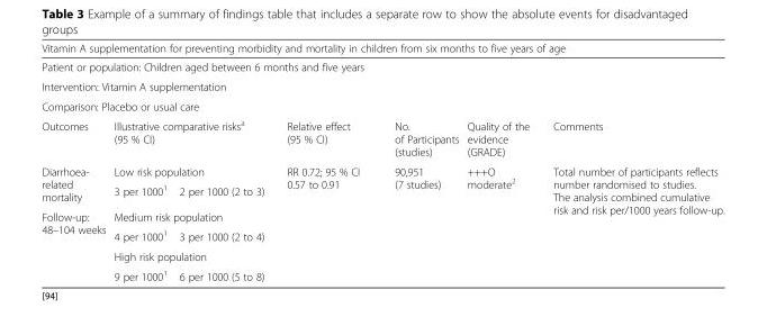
<table><thead><tr><td colspan="7">Vitamin A supplementation for preventing morbidity and mortality in children from six months to five years of age</td></tr></thead><tbody><tr><td colspan="7">Patient or population: Children aged between 6 months and five years</td></tr><tr><td colspan="7">Intervention: Vitamin A supplementation</td></tr><tr><td colspan="7">Comparison: Placebo or usual care</td></tr><tr><td>Outcomes</td><td colspan="2">Illustrative comparative risks<sup>a</sup> (95 % CI)</td><td>Relative effect (95 % CI)</td><td>No. of Participants (studies)</td><td>Quality of the evidence (GRADE)</td><td>Comments</td></tr><tr><td rowspan="2">Diarrhoea- related mortality</td><td colspan="2">Low risk population</td><td rowspan="6">RR 0.72; 95 % CI 0.57 to 0.91</td><td rowspan="6">90,951 (7 studies)</td><td rowspan="6">+++O moderate<sup>2</sup></td><td rowspan="6">Total number of participants reflects number randomised to studies. The analysis combined cumulative risk and risk per/1000 years follow-up.</td></tr><tr><td>3 per 1000<sup>1</sup></td><td>2 per 1000 (2 to 3)</td></tr><tr><td rowspan="4">Follow-up: 48–104 weeks</td><td colspan="2">Medium risk population</td></tr><tr><td>4 per 1000<sup>1</sup></td><td>3 per 1000 (2 to 4)</td></tr><tr><td colspan="2">High risk population</td></tr><tr><td>9 per 1000<sup>1</sup></td><td>6 per 1000 (5 to 8)</td></tr></tbody></table>